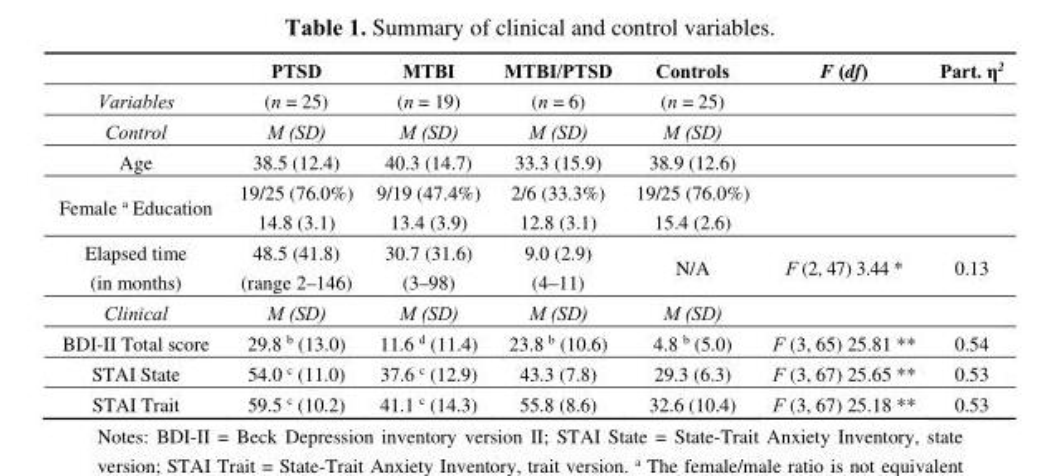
<table><thead><tr><td></td><td>PTSD</td><td>MTBI</td><td>MTBI/PTSD</td><td>Controls</td><td>F (df)</td><td>Part. η<sup>2</sup></td></tr></thead><tbody><tr><td>Variables</td><td>(n = 25)</td><td>(n = 19)</td><td>(n = 6)</td><td>(n = 25)</td><td></td><td></td></tr><tr><td>Control</td><td>M (SD)</td><td>M (SD)</td><td>M (SD)</td><td>M (SD)</td><td></td><td></td></tr><tr><td>Age</td><td>38.5 (12.4)</td><td>40.3 (14.7)</td><td>33.3 (15.9)</td><td>38.9 (12.6)</td><td></td><td></td></tr><tr><td>Female <sup>a</sup> Education</td><td>19/25 (76.0%) 14.8 (3.1)</td><td>9/19 (47.4%) 13.4 (3.9)</td><td>2/6 (33.3%) 12.8 (3.1)</td><td>19/25 (76.0%) 15.4 (2.6)</td><td></td><td></td></tr><tr><td>Elapsed time (in months)</td><td>48.5 (41.8) (range 2–146)</td><td>30.7 (31.6) (3–98)</td><td>9.0 (2.9) (4–11)</td><td>N/A</td><td>F (2, 47) 3.44 *</td><td>0.13</td></tr><tr><td>Clinical</td><td>M (SD)</td><td>M (SD)</td><td>M (SD)</td><td>M (SD)</td><td></td><td></td></tr><tr><td>BDI-II Total score</td><td>29.8 <sup>b</sup> (13.0)</td><td>11.6 <sup>d</sup> (11.4)</td><td>23.8 <sup>b</sup> (10.6)</td><td>4.8 <sup>b</sup> (5.0)</td><td>F (3, 65) 25.81 **</td><td>0.54</td></tr><tr><td>STAI State</td><td>54.0 <sup>c</sup> (11.0)</td><td>37.6 <sup>c</sup> (12.9)</td><td>43.3 (7.8)</td><td>29.3 (6.3)</td><td>F (3, 67) 25.65 **</td><td>0.53</td></tr><tr><td>STAI Trait</td><td>59.5 <sup>c</sup> (10.2)</td><td>41.1 <sup>c</sup> (14.3)</td><td>55.8 (8.6)</td><td>32.6 (10.4)</td><td>F (3, 67) 25.18 **</td><td>0.53</td></tr></tbody></table>